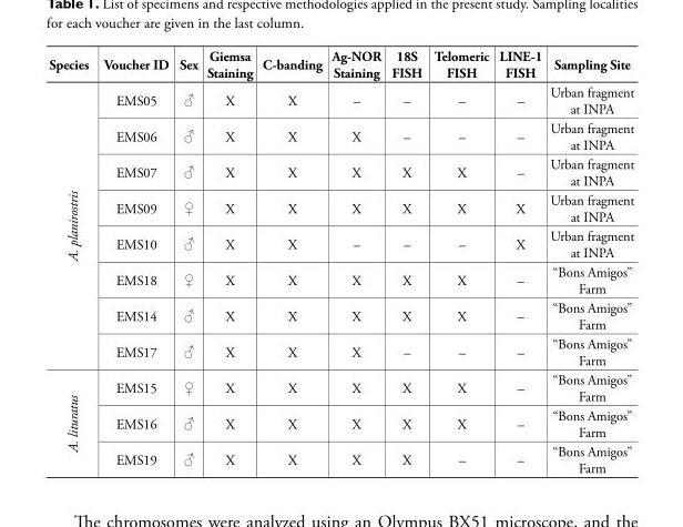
<table><thead><tr><td>Species</td><td>Voucher ID</td><td>Sex</td><td>Giemsa Staining</td><td>C-banding</td><td>Ag-NOR Staining</td><td>18S FISH</td><td>Telomeric FISH</td><td>LINE-1 FISH</td><td>Sampling Site</td></tr></thead><tbody><tr><td rowspan="8">A. planirostris</td><td>EMS05</td><td>♂</td><td>X</td><td>X</td><td>–</td><td>–</td><td>–</td><td>–</td><td>Urban fragment at INPA</td></tr><tr><td>EMS06</td><td>♂</td><td>X</td><td>X</td><td>X</td><td>–</td><td>–</td><td>–</td><td>Urban fragment at INPA</td></tr><tr><td>EMS07</td><td>♂</td><td>X</td><td>X</td><td>X</td><td>X</td><td>X</td><td>–</td><td>Urban fragment at INPA</td></tr><tr><td>EMS09</td><td>♀</td><td>X</td><td>X</td><td>X</td><td>X</td><td>X</td><td>X</td><td>Urban fragment at INPA</td></tr><tr><td>EMS10</td><td>♂</td><td>X</td><td>X</td><td>–</td><td>–</td><td>–</td><td>X</td><td>Urban fragment at INPA</td></tr><tr><td>EMS18</td><td>♀</td><td>X</td><td>X</td><td>X</td><td>X</td><td>X</td><td>–</td><td>“Bons Amigos” Farm</td></tr><tr><td>EMS14</td><td>♂</td><td>X</td><td>X</td><td>X</td><td>X</td><td>X</td><td>–</td><td>“Bons Amigos” Farm</td></tr><tr><td>EMS17</td><td>♂</td><td>X</td><td>X</td><td>X</td><td>–</td><td>–</td><td>–</td><td>“Bons Amigos” Farm</td></tr><tr><td rowspan="3">A. lituratus</td><td>EMS15</td><td>♀</td><td>X</td><td>X</td><td>X</td><td>X</td><td>X</td><td>–</td><td>“Bons Amigos” Farm</td></tr><tr><td>EMS16</td><td>♂</td><td>X</td><td>X</td><td>X</td><td>X</td><td>X</td><td>–</td><td>“Bons Amigos” Farm</td></tr><tr><td>EMS19</td><td>♂</td><td>X</td><td>X</td><td>X</td><td>X</td><td>–</td><td>–</td><td>“Bons Amigos” Farm</td></tr></tbody></table>